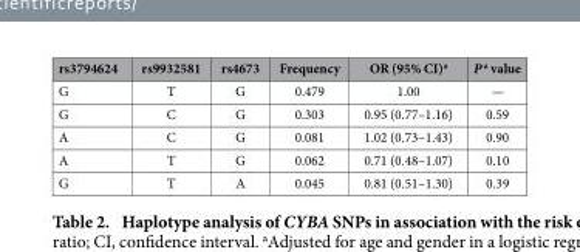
<table><thead><tr><td>rs3794624</td><td>rs9932581</td><td>rs4673</td><td>Frequency</td><td>OR (95% CI)<sup>a</sup></td><td>P a value</td></tr></thead><tbody><tr><td>G</td><td>T</td><td>G</td><td>0.479</td><td>1.00</td><td>—</td></tr><tr><td>G</td><td>C</td><td>G</td><td>0.303</td><td>0.95 (0.77–1.16)</td><td>0.59</td></tr><tr><td>A</td><td>C</td><td>G</td><td>0.081</td><td>1.02 (0.73–1.43)</td><td>0.90</td></tr><tr><td>A</td><td>T</td><td>G</td><td>0.062</td><td>0.71 (0.48–1.07)</td><td>0.10</td></tr><tr><td>G</td><td>T</td><td>A</td><td>0.045</td><td>0.81 (0.51–1.30)</td><td>0.39</td></tr></tbody></table>